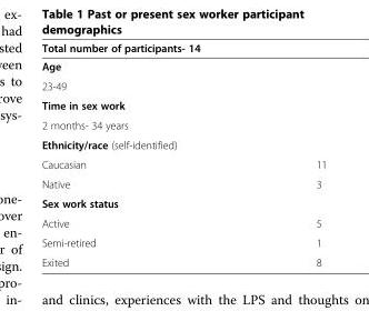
<table><thead><tr><td colspan="2">Total number of participants- 14</td></tr></thead><tbody><tr><td colspan="2">Age</td></tr><tr><td colspan="2">23-49</td></tr><tr><td colspan="2">Time in sex work</td></tr><tr><td colspan="2">2 months- 34 years</td></tr><tr><td colspan="2">Ethnicity/race (self-identified)</td></tr><tr><td>Caucasian</td><td>11</td></tr><tr><td>Native</td><td>3</td></tr><tr><td colspan="2">Sex work status</td></tr><tr><td>Active</td><td>5</td></tr><tr><td>Semi-retired</td><td>1</td></tr><tr><td>Exited</td><td>8</td></tr></tbody></table>